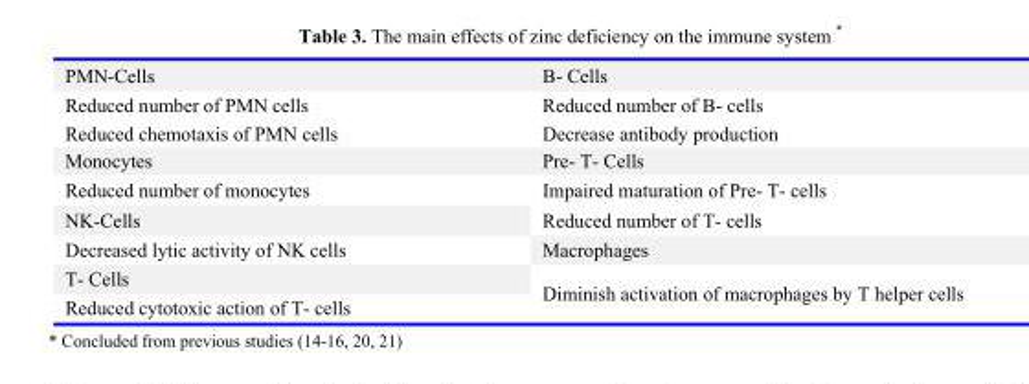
<table><tbody><tr><td>PMN-Cells</td><td>B- Cells</td></tr><tr><td>Reduced number of PMN cells</td><td>Reduced number of B- cells</td></tr><tr><td>Reduced chemotaxis of PMN cells</td><td>Decrease antibody production</td></tr><tr><td>Monocytes</td><td>Pre- T- Cells</td></tr><tr><td>Reduced number of monocytes</td><td>Impaired maturation of Pre- T- cells</td></tr><tr><td>NK-Cells</td><td>Reduced number of T- cells</td></tr><tr><td>Decreased lytic activity of NK cells</td><td>Macrophages</td></tr><tr><td>T- Cells</td><td rowspan="2">Diminish activation of macrophages by T helper cells</td></tr><tr><td>Reduced cytotoxic action of T- cells</td></tr></tbody></table>